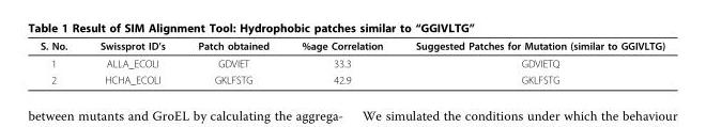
<table><thead><tr><td>S. No.</td><td>Swissprot ID’s</td><td>Patch obtained</td><td>%age Correlation</td><td>Suggested Patches for Mutation (similar to GGIVLTG)</td></tr></thead><tbody><tr><td>1</td><td>ALLA_ECOLI</td><td>GDVIET</td><td>33.3</td><td>GDVIETQ</td></tr><tr><td>2</td><td>HCHA_ECOLI</td><td>GKLFSTG</td><td>42.9</td><td>GKLFSTG</td></tr></tbody></table>